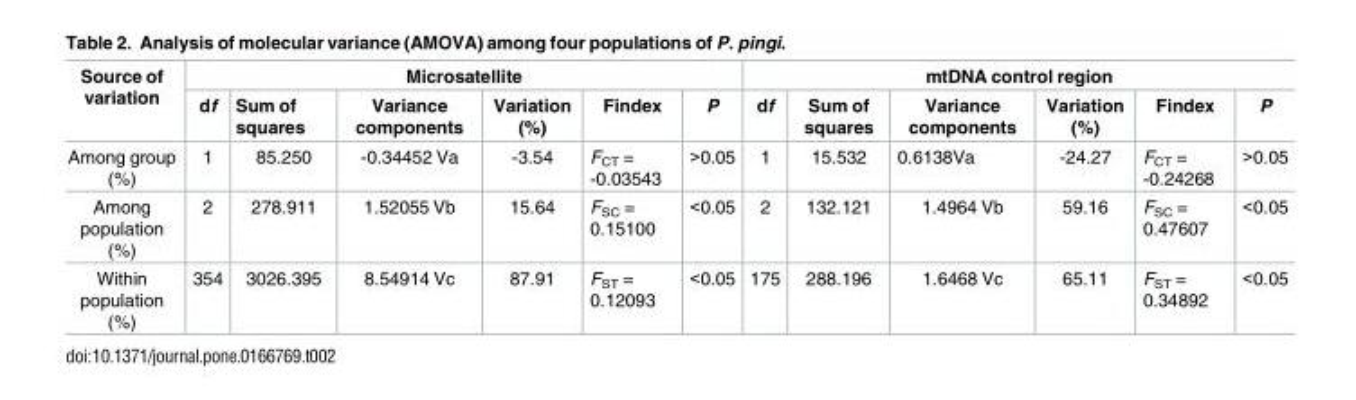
<table><thead><tr><td rowspan="2">Source of variation</td><td colspan="6">Microsatellite</td><td colspan="6">mtDNA control region</td></tr><tr><td>df</td><td>Sum of squares</td><td>Variance components</td><td>Variation (%)</td><td>Findex</td><td>P</td><td>df</td><td>Sum of squares</td><td>Variance components</td><td>Variation (%)</td><td>Findex</td><td>P</td></tr></thead><tbody><tr><td>Among group (%)</td><td>1</td><td>85.250</td><td>-0.34452 Va</td><td>-3.54</td><td>F<sub>CT</sub> = -0.03543</td><td>&gt;0.05</td><td>1</td><td>15.532</td><td>0.6138Va</td><td>-24.27</td><td>F<sub>CT</sub> = -0.24268</td><td>&gt;0.05</td></tr><tr><td>Among population (%)</td><td>2</td><td>278.911</td><td>1.52055 Vb</td><td>15.64</td><td>F<sub>SC</sub> = 0.15100</td><td>&lt;0.05</td><td>2</td><td>132.121</td><td>1.4964 Vb</td><td>59.16</td><td>F<sub>SC</sub> = 0.47607</td><td>&lt;0.05</td></tr><tr><td>Within population (%)</td><td>354</td><td>3026.395</td><td>8.54914 Vc</td><td>87.91</td><td>F<sub>ST</sub> = 0.12093</td><td>&lt;0.05</td><td>175</td><td>288.196</td><td>1.6468 Vc</td><td>65.11</td><td>F<sub>ST</sub> = 0.34892</td><td>&lt;0.05</td></tr></tbody></table>